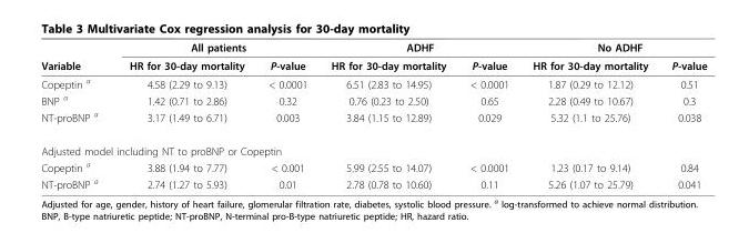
<table><thead><tr><td rowspan="2">Variable</td><td colspan="2">All patients</td><td colspan="2">ADHF</td><td colspan="2">No ADHF</td></tr><tr><td>HR for 30-day mortality</td><td>P-value</td><td>HR for 30-day mortality</td><td>P-value</td><td>HR for 30-day mortality</td><td>P-value</td></tr></thead><tbody><tr><td>Copeptin <sup>a</sup></td><td>4.58 (2.29 to 9.13)</td><td>&lt; 0.0001</td><td>6.51 (2.83 to 14.95)</td><td>&lt; 0.0001</td><td>1.87 (0.29 to 12.12)</td><td>0.51</td></tr><tr><td>BNP <sup>a</sup></td><td>1.42 (0.71 to 2.86)</td><td>0.32</td><td>0.76 (0.23 to 2.50)</td><td>0.65</td><td>2.28 (0.49 to 10.67)</td><td>0.3</td></tr><tr><td>NT-proBNP <sup>a</sup></td><td>3.17 (1.49 to 6.71)</td><td>0.003</td><td>3.84 (1.15 to 12.89)</td><td>0.029</td><td>5.32 (1.1 to 25.76)</td><td>0.038</td></tr><tr><td colspan="7">Adjusted model including NT to proBNP or Copeptin</td></tr><tr><td>Copeptin <sup>a</sup></td><td>3.88 (1.94 to 7.77)</td><td>&lt; 0.001</td><td>5.99 (2.55 to 14.07)</td><td>&lt; 0.0001</td><td>1.23 (0.17 to 9.14)</td><td>0.84</td></tr><tr><td>NT-proBNP <sup>a</sup></td><td>2.74 (1.27 to 5.93)</td><td>0.01</td><td>2.78 (0.78 to 10.60)</td><td>0.11</td><td>5.26 (1.07 to 25.79)</td><td>0.041</td></tr></tbody></table>